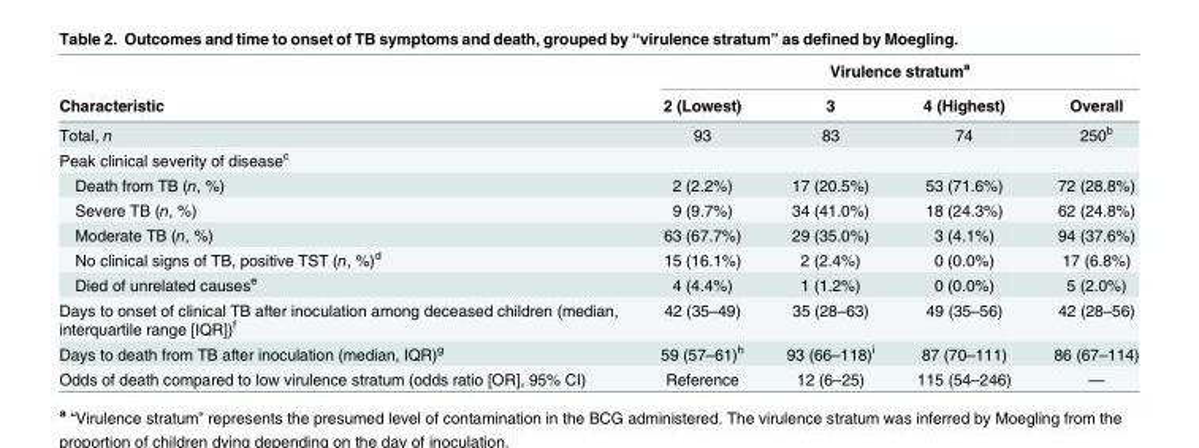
<table><thead><tr><td rowspan="2">Characteristic</td><td colspan="4">Virulence stratum<sup>a</sup></td></tr><tr><td>2 (Lowest)</td><td>3</td><td>4 (Highest)</td><td>Overall</td></tr></thead><tbody><tr><td>Total, n</td><td>93</td><td>83</td><td>74</td><td>250<sup>b</sup></td></tr><tr><td colspan="5">Peak clinical severity of disease<sup>c</sup></td></tr><tr><td>Death from TB (n, %)</td><td>2 (2.2%)</td><td>17 (20.5%)</td><td>53 (71.6%)</td><td>72 (28.8%)</td></tr><tr><td>Severe TB (n, %)</td><td>9 (9.7%)</td><td>34 (41.0%)</td><td>18 (24.3%)</td><td>62 (24.8%)</td></tr><tr><td>Moderate TB (n, %)</td><td>63 (67.7%)</td><td>29 (35.0%)</td><td>3 (4.1%)</td><td>94 (37.6%)</td></tr><tr><td>No clinical signs of TB, positive TST (n, %)<sup>d</sup></td><td>15 (16.1%)</td><td>2 (2.4%)</td><td>0 (0.0%)</td><td>17 (6.8%)</td></tr><tr><td>Died of unrelated causes<sup>e</sup></td><td>4 (4.4%)</td><td>1 (1.2%)</td><td>0 (0.0%)</td><td>5 (2.0%)</td></tr><tr><td>Days to onset of clinical TB after inoculation among deceased children (median, interquartile range [IQR])<sup>f</sup></td><td>42 (35–49)</td><td>35 (28–63)</td><td>49 (35–56)</td><td>42 (28–56)</td></tr><tr><td>Days to death from TB after inoculation (median, IQR)<sup>g</sup></td><td>59 (57–61)<sup>h</sup></td><td>93 (66–118)<sup>i</sup></td><td>87 (70–111)</td><td>86 (67–114)</td></tr><tr><td>Odds of death compared to low virulence stratum (odds ratio [OR], 95% CI)</td><td>Reference</td><td>12 (6–25)</td><td>115 (54–246)</td><td>—</td></tr></tbody></table>